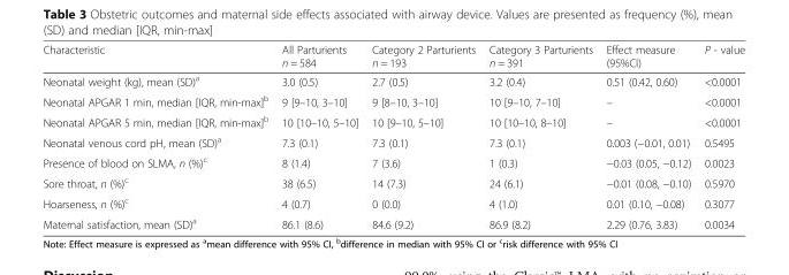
<table><thead><tr><td>Characteristic</td><td>All Parturients n = 584</td><td>Category 2 Parturients n = 193</td><td>Category 3 Parturients n = 391</td><td>Effect measure (95%CI)</td><td>P - value</td></tr></thead><tbody><tr><td>Neonatal weight (kg), mean (SD)<sup>a</sup></td><td>3.0 (0.5)</td><td>2.7 (0.5)</td><td>3.2 (0.4)</td><td>0.51 (0.42, 0.60)</td><td>&lt;0.0001</td></tr><tr><td>Neonatal APGAR 1 min, median [IQR, min-max]<sup>b</sup></td><td>9 [9–10, 3–10]</td><td>9 [8–10, 3–10]</td><td>10 [9–10, 7–10]</td><td>–</td><td>&lt;0.0001</td></tr><tr><td>Neonatal APGAR 5 min, median [IQR, min-max]<sup>b</sup></td><td>10 [10–10, 5–10]</td><td>10 [9–10, 5–10]</td><td>10 [10–10, 8–10]</td><td>–</td><td>&lt;0.0001</td></tr><tr><td>Neonatal venous cord pH, mean (SD)<sup>a</sup></td><td>7.3 (0.1)</td><td>7.3 (0.1)</td><td>7.3 (0.1)</td><td>0.003 (−0.01, 0.01)</td><td>0.5495</td></tr><tr><td>Presence of blood on SLMA, n (%)<sup>c</sup></td><td>8 (1.4)</td><td>7 (3.6)</td><td>1 (0.3)</td><td>−0.03 (0.05, −0.12)</td><td>0.0023</td></tr><tr><td>Sore throat, n (%)<sup>c</sup></td><td>38 (6.5)</td><td>14 (7.3)</td><td>24 (6.1)</td><td>−0.01 (0.08, −0.10)</td><td>0.5970</td></tr><tr><td>Hoarseness, n (%)<sup>c</sup></td><td>4 (0.7)</td><td>0 (0.0)</td><td>4 (1.0)</td><td>0.01 (0.10, −0.08)</td><td>0.3077</td></tr><tr><td>Maternal satisfaction, mean (SD)<sup>a</sup></td><td>86.1 (8.6)</td><td>84.6 (9.2)</td><td>86.9 (8.2)</td><td>2.29 (0.76, 3.83)</td><td>0.0034</td></tr></tbody></table>